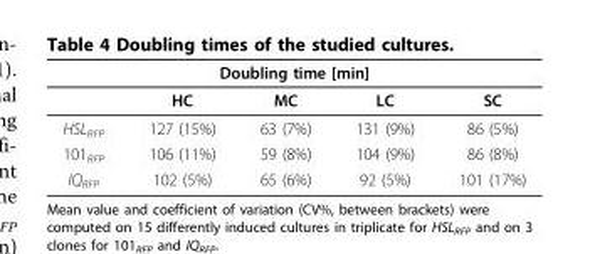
<table><thead><tr><td colspan="5">Doubling time [min]</td></tr><tr><td></td><td>HC</td><td>MC</td><td>LC</td><td>SC</td></tr></thead><tbody><tr><td>HSL<sub>RFP</sub></td><td>127 (15%)</td><td>63 (7%)</td><td>131 (9%)</td><td>86 (5%)</td></tr><tr><td>101<sub>RFP</sub></td><td>106 (11%)</td><td>59 (8%)</td><td>104 (9%)</td><td>86 (8%)</td></tr><tr><td>IQ<sub>RFP</sub></td><td>102 (5%)</td><td>65 (6%)</td><td>92 (5%)</td><td>101 (17%)</td></tr></tbody></table>